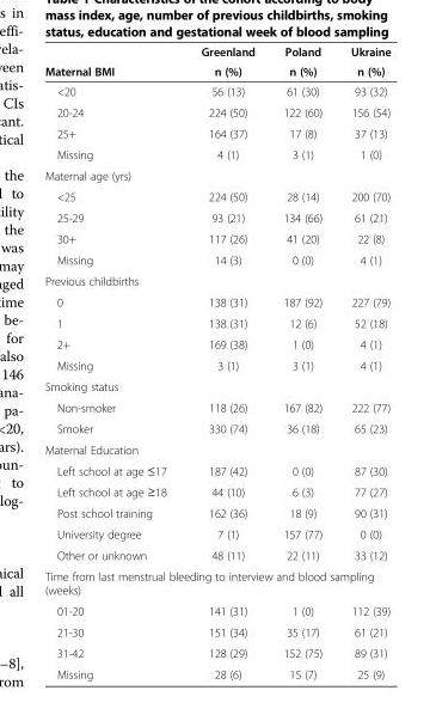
<table><thead><tr><td rowspan="2">Maternal BMI</td><td rowspan="2">Greenland n (%)</td><td rowspan="2">Poland n (%)</td><td rowspan="2">Ukraine n (%)</td></tr><tr></tr></thead><tbody><tr><td>&lt;20</td><td>56 (13)</td><td>61 (30)</td><td>93 (32)</td></tr><tr><td>20-24</td><td>224 (50)</td><td>122 (60)</td><td>156 (54)</td></tr><tr><td>25+</td><td>164 (37)</td><td>17 (8)</td><td>37 (13)</td></tr><tr><td>Missing</td><td>4 (1)</td><td>3 (1)</td><td>1 (0)</td></tr><tr><td colspan="4">Maternal age (yrs)</td></tr><tr><td>&lt;25</td><td>224 (50)</td><td>28 (14)</td><td>200 (70)</td></tr><tr><td>25-29</td><td>93 (21)</td><td>134 (66)</td><td>61 (21)</td></tr><tr><td>30+</td><td>117 (26)</td><td>41 (20)</td><td>22 (8)</td></tr><tr><td>Missing</td><td>14 (3)</td><td>0 (0)</td><td>4 (1)</td></tr><tr><td colspan="4">Previous childbirths</td></tr><tr><td>0</td><td>138 (31)</td><td>187 (92)</td><td>227 (79)</td></tr><tr><td>1</td><td>138 (31)</td><td>12 (6)</td><td>52 (18)</td></tr><tr><td>2+</td><td>169 (38)</td><td>1 (0)</td><td>4 (1)</td></tr><tr><td>Missing</td><td>3 (1)</td><td>3 (1)</td><td>4 (1)</td></tr><tr><td colspan="4">Smoking status</td></tr><tr><td>Non-smoker</td><td>118 (26)</td><td>167 (82)</td><td>222 (77)</td></tr><tr><td>Smoker</td><td>330 (74)</td><td>36 (18)</td><td>65 (23)</td></tr><tr><td colspan="4">Maternal Education</td></tr><tr><td>Left school at age ≤17</td><td>187 (42)</td><td>0 (0)</td><td>87 (30)</td></tr><tr><td>Left school at age ≥18</td><td>44 (10)</td><td>6 (3)</td><td>77 (27)</td></tr><tr><td>Post school training</td><td>162 (36)</td><td>18 (9)</td><td>90 (31)</td></tr><tr><td>University degree</td><td>7 (1)</td><td>157 (77)</td><td>0 (0)</td></tr><tr><td>Other or unknown</td><td>48 (11)</td><td>22 (11)</td><td>33 (12)</td></tr><tr><td colspan="4">Time from last menstrual bleeding to interview and blood sampling (weeks)</td></tr><tr><td>01-20</td><td>141 (31)</td><td>1 (0)</td><td>112 (39)</td></tr><tr><td>21-30</td><td>151 (34)</td><td>35 (17)</td><td>61 (21)</td></tr><tr><td>31-42</td><td>128 (29)</td><td>152 (75)</td><td>89 (31)</td></tr><tr><td>Missing</td><td>28 (6)</td><td>15 (7)</td><td>25 (9)</td></tr></tbody></table>